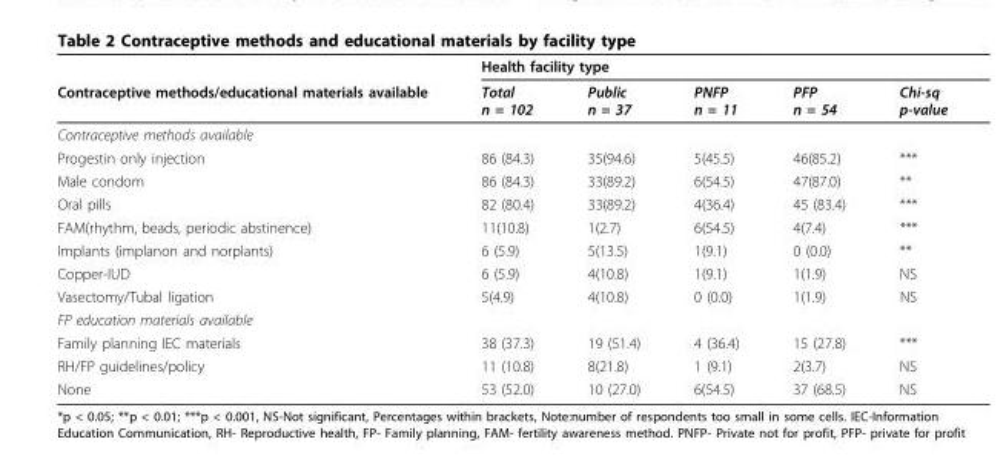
<table><thead><tr><td rowspan="2">Contraceptive methods/educational materials available</td><td colspan="5">Health facility type</td></tr><tr><td>Total n = 102</td><td>Public n = 37</td><td>PNFP n = 11</td><td>PFP n = 54</td><td>Chi-sq p-value</td></tr></thead><tbody><tr><td colspan="6">Contraceptive methods available</td></tr><tr><td>Progestin only injection</td><td>86 (84.3)</td><td>35(94.6)</td><td>5(45.5)</td><td>46(85.2)</td><td>***</td></tr><tr><td>Male condom</td><td>86 (84.3)</td><td>33(89.2)</td><td>6(54.5)</td><td>47(87.0)</td><td>**</td></tr><tr><td>Oral pills</td><td>82 (80.4)</td><td>33(89.2)</td><td>4(36.4)</td><td>45 (83.4)</td><td>***</td></tr><tr><td>FAM(rhythm, beads, periodic abstinence)</td><td>11(10.8)</td><td>1(2.7)</td><td>6(54.5)</td><td>4(7.4)</td><td>***</td></tr><tr><td>Implants (implanon and norplants)</td><td>6 (5.9)</td><td>5(13.5)</td><td>1(9.1)</td><td>0 (0.0)</td><td>**</td></tr><tr><td>Copper-IUD</td><td>6 (5.9)</td><td>4(10.8)</td><td>1(9.1)</td><td>1(1.9)</td><td>NS</td></tr><tr><td>Vasectomy/Tubal ligation</td><td>5(4.9)</td><td>4(10.8)</td><td>0 (0.0)</td><td>1(1.9)</td><td>NS</td></tr><tr><td colspan="6">FP education materials available</td></tr><tr><td>Family planning IEC materials</td><td>38 (37.3)</td><td>19 (51.4)</td><td>4 (36.4)</td><td>15 (27.8)</td><td>***</td></tr><tr><td>RH/FP guidelines/policy</td><td>11 (10.8)</td><td>8(21.8)</td><td>1 (9.1)</td><td>2(3.7)</td><td>NS</td></tr><tr><td>None</td><td>53 (52.0)</td><td>10 (27.0)</td><td>6(54.5)</td><td>37 (68.5)</td><td>NS</td></tr></tbody></table>